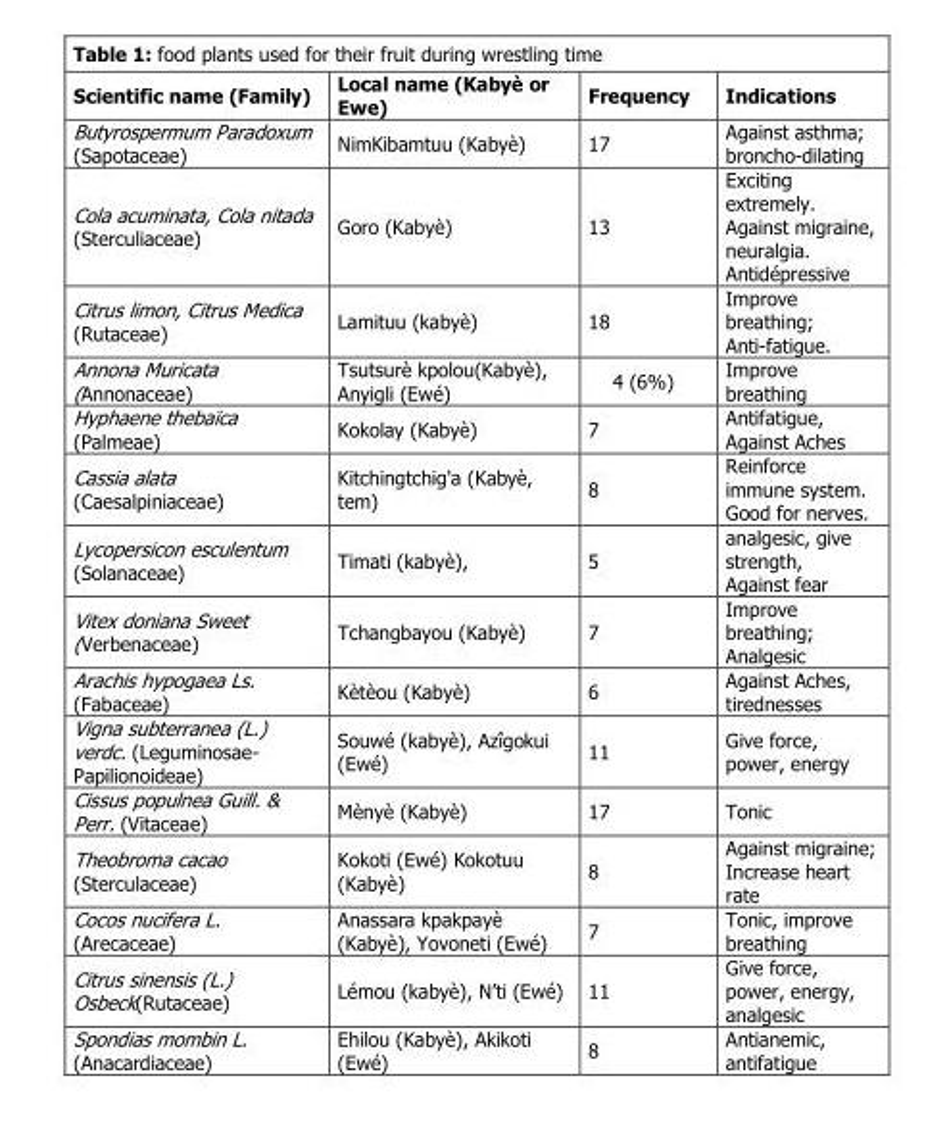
<table><thead><tr><td>Scientific name (Family)</td><td>Local name (Kabyè or Ewe)</td><td>Frequency</td><td>Indications</td></tr></thead><tbody><tr><td>Butyrospermum Paradoxum (Sapotaceae)</td><td>NimKibamtuu (Kabyè)</td><td>17</td><td>Against asthma; broncho-dilating</td></tr><tr><td>Cola acuminata, Cola nitada (Sterculiaceae)</td><td>Goro (Kabyè)</td><td>13</td><td>Exciting extremely. Against migraine, neuralgia. Antidépressive</td></tr><tr><td>Citrus limon, Citrus Medica (Rutaceae)</td><td>Lamituu (kabyè)</td><td>18</td><td>Improve breathing; Anti-fatigue.</td></tr><tr><td>Annona Muricata (Annonaceae)</td><td>Tsutsurè kpolou(Kabyè), Anyigli (Ewé)</td><td>4 (6%)</td><td>Improve breathing</td></tr><tr><td>Hyphaene thebaïca (Palmeae)</td><td>Kokolay (Kabyè)</td><td>7</td><td>Antifatigue, Against Aches</td></tr><tr><td>Cassia alata (Caesalpiniaceae)</td><td>Kitchingtchig&#x27;a (Kabyè, tem)</td><td>8</td><td>Reinforce immune system. Good for nerves.</td></tr><tr><td>Lycopersicon esculentum (Solanaceae)</td><td>Timati (kabyè),</td><td>5</td><td>analgesic, give strength, Against fear</td></tr><tr><td>Vitex doniana Sweet (Verbenaceae)</td><td>Tchangbayou (Kabyè)</td><td>7</td><td>Improve breathing; Analgesic</td></tr><tr><td>Arachis hypogaea Ls. (Fabaceae)</td><td>Kètèou (Kabyè)</td><td>6</td><td>Against Aches, tirednesses</td></tr><tr><td>Vigna subterranea (L.) verdc. (Leguminosae- Papilionoideae)</td><td>Souwé (kabyè), Azîgokui (Ewé)</td><td>11</td><td>Give force, power, energy</td></tr><tr><td>Cissus populnea Guill. &amp; Perr. (Vitaceae)</td><td>Mènyè (Kabyè)</td><td>17</td><td>Tonic</td></tr><tr><td>Theobroma cacao (Sterculaceae)</td><td>Kokoti (Ewé) Kokotuu (Kabyè)</td><td>8</td><td>Against migraine; Increase heart rate</td></tr><tr><td>Cocos nucifera L. (Arecaceae)</td><td>Anassara kpakpayè (Kabyè), Yovoneti (Ewé)</td><td>7</td><td>Tonic, improve breathing</td></tr><tr><td>Citrus sinensis (L.) Osbeck(Rutaceae)</td><td>Lémou (kabyè), N’ti (Ewé)</td><td>11</td><td>Give force, power, energy, analgesic</td></tr><tr><td>Spondias mombin L. (Anacardiaceae)</td><td>Ehilou (Kabyè), Akikoti (Ewé)</td><td>8</td><td>Antianemic, antifatigue</td></tr></tbody></table>